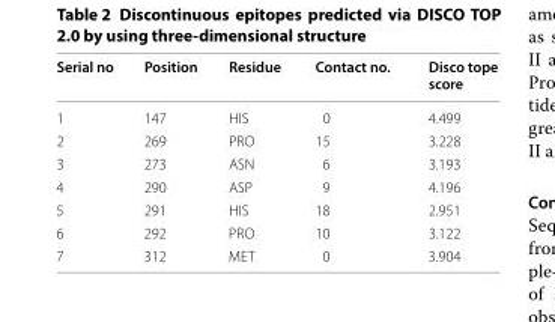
<table><thead><tr><td>Serial no</td><td>Position</td><td>Residue</td><td>Contact no.</td><td>Disco tope score</td></tr></thead><tbody><tr><td>1</td><td>147</td><td>HIS</td><td>0</td><td>4.499</td></tr><tr><td>2</td><td>269</td><td>PRO</td><td>15</td><td>3.228</td></tr><tr><td>3</td><td>273</td><td>ASN</td><td>6</td><td>3.193</td></tr><tr><td>4</td><td>290</td><td>ASP</td><td>9</td><td>4.196</td></tr><tr><td>5</td><td>291</td><td>HIS</td><td>18</td><td>2.951</td></tr><tr><td>6</td><td>292</td><td>PRO</td><td>10</td><td>3.122</td></tr><tr><td>7</td><td>312</td><td>MET</td><td>0</td><td>3.904</td></tr></tbody></table>